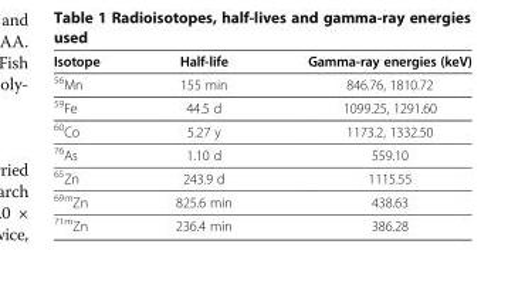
<table><thead><tr><td>Isotope</td><td>Half-life</td><td>Gamma-ray energies (keV)</td></tr></thead><tbody><tr><td><sup>56</sup>Mn</td><td>155 min</td><td>846.76, 1810.72</td></tr><tr><td><sup>59</sup>Fe</td><td>44.5 d</td><td>1099.25, 1291.60</td></tr><tr><td><sup>60</sup>Co</td><td>5.27 y</td><td>1173.2, 1332.50</td></tr><tr><td><sup>76</sup>As</td><td>1.10 d</td><td>559.10</td></tr><tr><td><sup>65</sup>Zn</td><td>243.9 d</td><td>1115.55</td></tr><tr><td><sup>69m</sup>Zn</td><td>825.6 min</td><td>438.63</td></tr><tr><td><sup>71m</sup>Zn</td><td>236.4 min</td><td>386.28</td></tr></tbody></table>